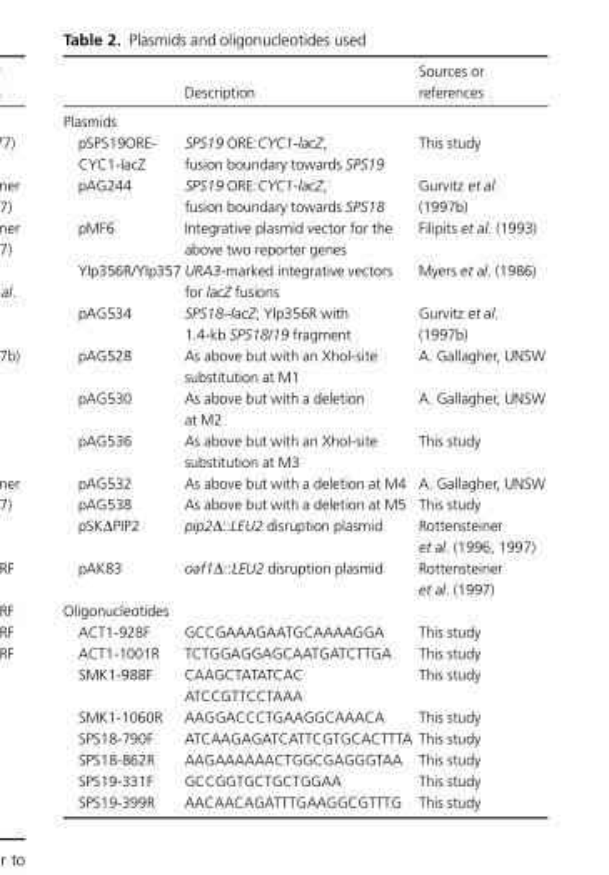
<table><thead><tr><td></td><td>Description</td><td>Sources or references</td></tr></thead><tbody><tr><td colspan="3">Plasmids</td></tr><tr><td>pSPS19ORE- CYC1-lacZ</td><td>SPS19 ORE:CYC1-lacZ, fusion boundary towards SPS19</td><td>This study</td></tr><tr><td>pAG244</td><td>SPS19 ORE:CYC1-lacZ, fusion boundary towards SPS18</td><td>Gurvitz et al. (1997b)</td></tr><tr><td>pMF6</td><td>Integrative plasmid vector for the above two reporter genes</td><td>Filipits et al. (1993)</td></tr><tr><td>YIp356R/YIp357</td><td>URA3-marked integrative vectors for lacZ fusions</td><td>Myers et al. (1986)</td></tr><tr><td>pAG534</td><td>SPS18–lacZ; YIp356R with 1.4-kb SPS18/19 fragment</td><td>Gurvitz et al. (1997b)</td></tr><tr><td>pAG528</td><td>As above but with an XhoI-site substitution at M1</td><td>A. Gallagher, UNSW</td></tr><tr><td>pAG530</td><td>As above but with a deletion at M2</td><td>A. Gallagher, UNSW</td></tr><tr><td>pAG536</td><td>As above but with an XhoI-site substitution at M3</td><td>This study</td></tr><tr><td>pAG532</td><td>As above but with a deletion at M4</td><td>A. Gallagher, UNSW</td></tr><tr><td>pAG538</td><td>As above but with a deletion at M5</td><td>This study</td></tr><tr><td>pSKΔPIP2</td><td>pip2Δ::LEU2 disruption plasmid</td><td>Rottensteiner et al. (1996, 1997)</td></tr><tr><td>pAK83</td><td>oaf1Δ::LEU2 disruption plasmid</td><td>Rottensteiner et al. (1997)</td></tr><tr><td colspan="3">Oligonucleotides</td></tr><tr><td>ACT1-928F</td><td>GCCGAAAGAATGCAAAAGGA</td><td>This study</td></tr><tr><td>ACT1-1001R</td><td>TCTGGAGGAGCAATGATCTTGA</td><td>This study</td></tr><tr><td>SMK1-988F</td><td>CAAGCTATATCAC ATCCGTTCCTAAA</td><td>This study</td></tr><tr><td>SMK1-1060R</td><td>AAGGACCCTGAAGGCAAACA</td><td>This study</td></tr><tr><td>SPS18-790F</td><td>ATCAAGAGATCATTCGTGCACTTTA</td><td>This study</td></tr><tr><td>SPS18-862R</td><td>AAGAAAAAACTGGCGAGGGTAA</td><td>This study</td></tr><tr><td>SPS19-331F</td><td>GCCGGTGCTGCTGGAA</td><td>This study</td></tr><tr><td>SPS19-399R</td><td>AACAACAGATTTGAAGGCGTTTG</td><td>This study</td></tr></tbody></table>